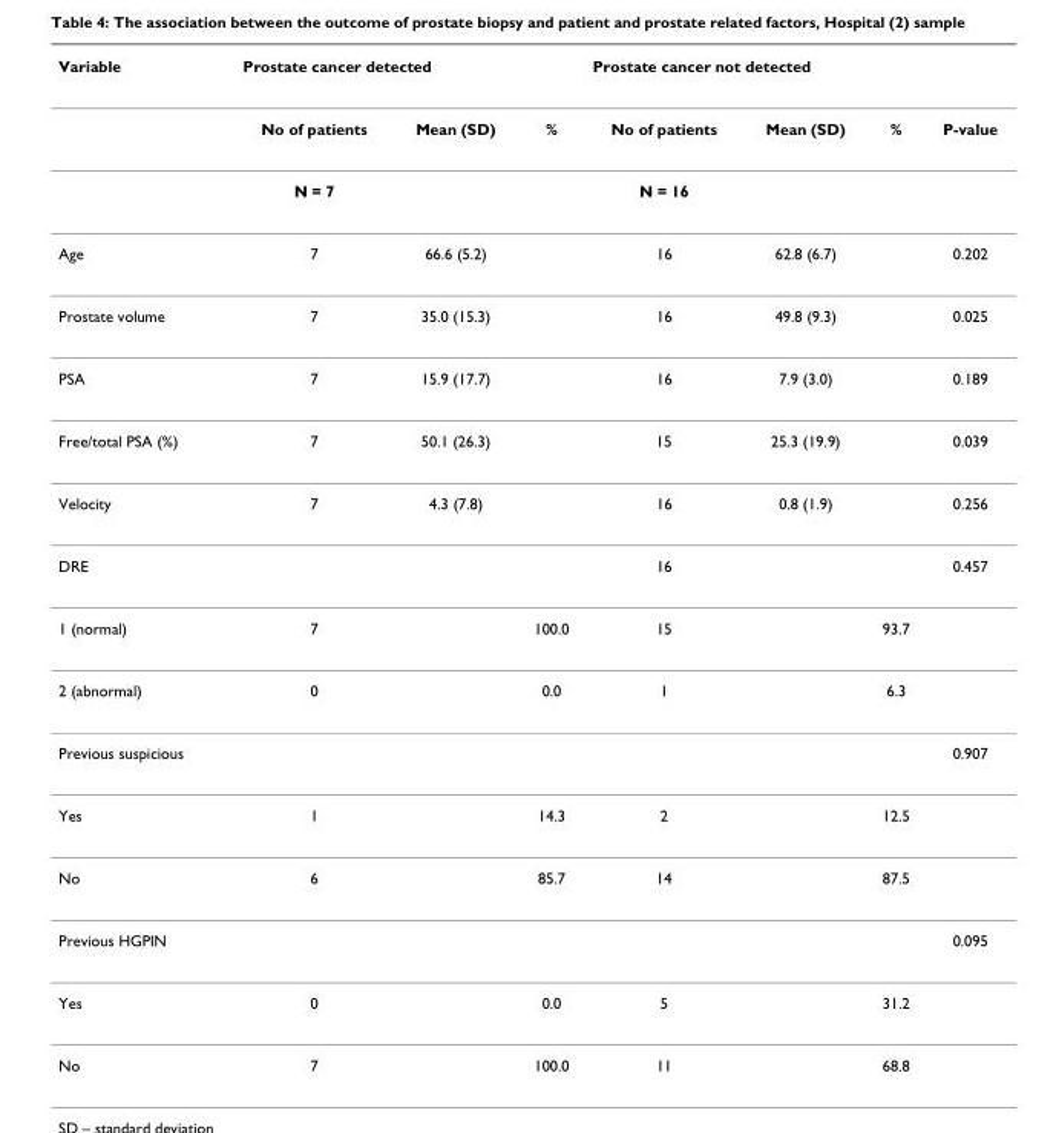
<table><thead><tr><td rowspan="2">Variable</td><td colspan="3">Prostate cancer detected</td><td colspan="3">Prostate cancer not detected</td><td rowspan="2">P-value</td></tr><tr><td>No of patients</td><td>Mean (SD)</td><td>%</td><td>No of patients</td><td>Mean (SD)</td><td>%</td></tr></thead><tbody><tr><td></td><td>N = 7</td><td></td><td></td><td>N = 16</td><td></td><td></td><td></td></tr><tr><td>Age</td><td>7</td><td>66.6 (5.2)</td><td></td><td>16</td><td>62.8 (6.7)</td><td></td><td>0.202</td></tr><tr><td>Prostate volume</td><td>7</td><td>35.0 (15.3)</td><td></td><td>16</td><td>49.8 (9.3)</td><td></td><td>0.025</td></tr><tr><td>PSA</td><td>7</td><td>15.9 (17.7)</td><td></td><td>16</td><td>7.9 (3.0)</td><td></td><td>0.189</td></tr><tr><td>Free/total PSA (%)</td><td>7</td><td>50.1 (26.3)</td><td></td><td>15</td><td>25.3 (19.9)</td><td></td><td>0.039</td></tr><tr><td>Velocity</td><td>7</td><td>4.3 (7.8)</td><td></td><td>16</td><td>0.8 (1.9)</td><td></td><td>0.256</td></tr><tr><td>DRE</td><td></td><td></td><td></td><td>16</td><td></td><td></td><td>0.457</td></tr><tr><td>1 (normal)</td><td>7</td><td></td><td>100.0</td><td>15</td><td></td><td>93.7</td><td></td></tr><tr><td>2 (abnormal)</td><td>0</td><td></td><td>0.0</td><td>1</td><td></td><td>6.3</td><td></td></tr><tr><td>Previous suspicious</td><td></td><td></td><td></td><td></td><td></td><td></td><td>0.907</td></tr><tr><td>Yes</td><td>1</td><td></td><td>14.3</td><td>2</td><td></td><td>12.5</td><td></td></tr><tr><td>No</td><td>6</td><td></td><td>85.7</td><td>14</td><td></td><td>87.5</td><td></td></tr><tr><td>Previous HGPIN</td><td></td><td></td><td></td><td></td><td></td><td></td><td>0.095</td></tr><tr><td>Yes</td><td>0</td><td></td><td>0.0</td><td>5</td><td></td><td>31.2</td><td></td></tr><tr><td>No</td><td>7</td><td></td><td>100.0</td><td>11</td><td></td><td>68.8</td><td></td></tr></tbody></table>